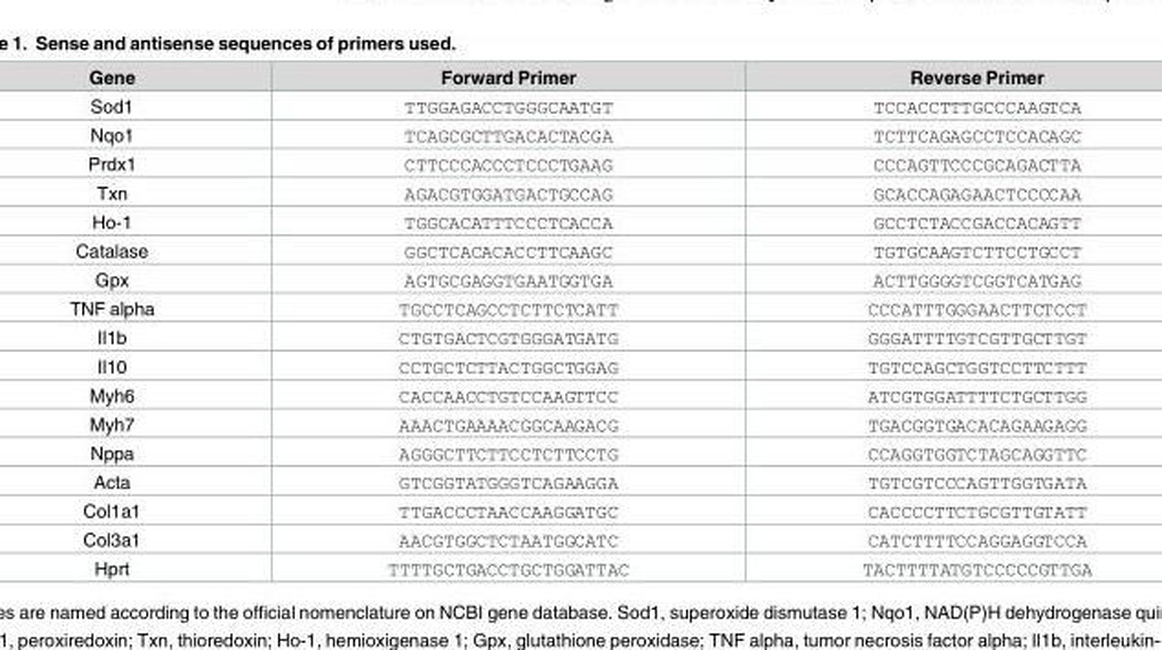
<table><thead><tr><td>Gene</td><td>Forward Primer</td><td>Reverse Primer</td></tr></thead><tbody><tr><td>Sod1</td><td>TTGGAGACCTGGGCAATGT</td><td>TCCACCTTTGCCCAAGTCA</td></tr><tr><td>Nqo1</td><td>TCAGCGCTTGACACTACGA</td><td>TCTTCAGAGCCTCCACAGC</td></tr><tr><td>Prdx1</td><td>CTTCCCACCCTCCCTGAAG</td><td>CCCAGTTCCCGCAGACTTA</td></tr><tr><td>Txn</td><td>AGACGTGGATGACTGCCAG</td><td>GCACCAGAGAACTCCCCAA</td></tr><tr><td>Ho-1</td><td>TGGCACATTTCCCTCACCA</td><td>GCCTCTACCGACCACAGTT</td></tr><tr><td>Catalase</td><td>GGCTCACACACCTTCAAGC</td><td>TGTGCAAGTCTTCCTGCCT</td></tr><tr><td>Gpx</td><td>AGTGCGAGGTGAATGGTGA</td><td>ACTTGGGGTCGGTCATGAG</td></tr><tr><td>TNF alpha</td><td>TGCCTCAGCCTCTTCTCATT</td><td>CCCATTTGGGAACTTCTCCT</td></tr><tr><td>Il1b</td><td>CTGTGACTCGTGGGATGATG</td><td>GGGATTTTGTCGTTGCTTGT</td></tr><tr><td>Il10</td><td>CCTGCTCTTACTGGCTGGAG</td><td>TGTCCAGCTGGTCCTTCTTT</td></tr><tr><td>Myh6</td><td>CACCAACCTGTCCAAGTTCC</td><td>ATCGTGGATTTTCTGCTTGG</td></tr><tr><td>Myh7</td><td>AAACTGAAAACGGCAAGACG</td><td>TGACGGTGACACAGAAGAGG</td></tr><tr><td>Nppa</td><td>AGGGCTTCTTCCTCTTCCTG</td><td>CCAGGTGGTCTAGCAGGTTC</td></tr><tr><td>Acta</td><td>GTCGGTATGGGTCAGAAGGA</td><td>TGTCGTCCCAGTTGGTGATA</td></tr><tr><td>Col1a1</td><td>TTGACCCTAACCAAGGATGC</td><td>CACCCCTTCTGCGTTGTATT</td></tr><tr><td>Col3a1</td><td>AACGTGGCTCTAATGGCATC</td><td>CATCTTTTCCAGGAGGTCCA</td></tr><tr><td>Hprt</td><td>TTTTGCTGACCTGCTGGATTAC</td><td>TACTTTTATGTCCCCCGTTGA</td></tr></tbody></table>